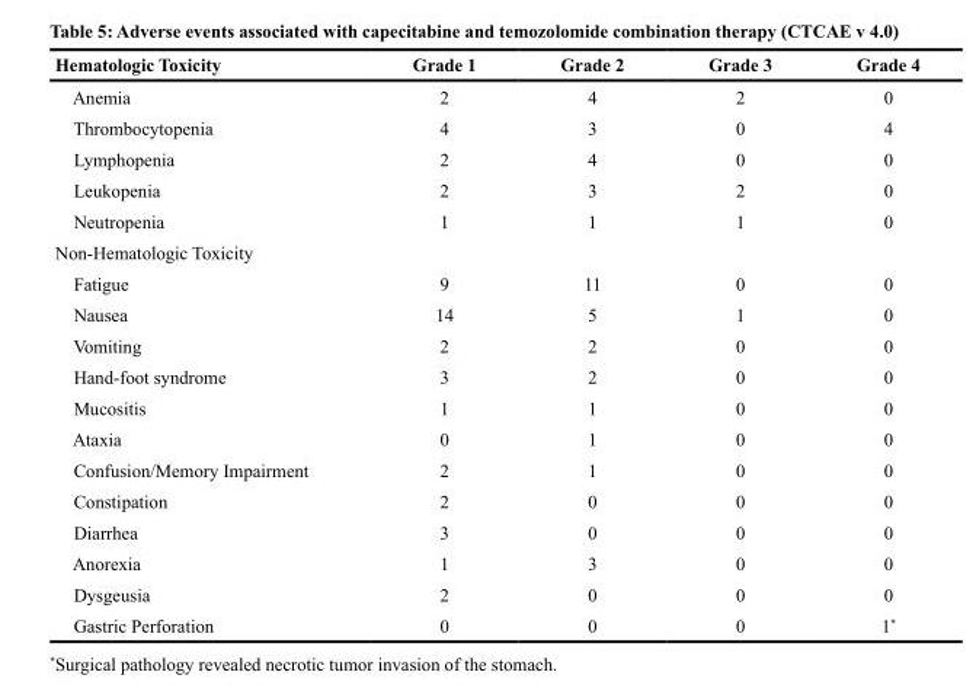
<table><thead><tr><td>Hematologic Toxicity</td><td>Grade 1</td><td>Grade 2</td><td>Grade 3</td><td>Grade 4</td></tr></thead><tbody><tr><td>Anemia</td><td>2</td><td>4</td><td>2</td><td>0</td></tr><tr><td>Thrombocytopenia</td><td>4</td><td>3</td><td>0</td><td>4</td></tr><tr><td>Lymphopenia</td><td>2</td><td>4</td><td>0</td><td>0</td></tr><tr><td>Leukopenia</td><td>2</td><td>3</td><td>2</td><td>0</td></tr><tr><td>Neutropenia</td><td>1</td><td>1</td><td>1</td><td>0</td></tr><tr><td colspan="5">Non-Hematologic Toxicity</td></tr><tr><td>Fatigue</td><td>9</td><td>11</td><td>0</td><td>0</td></tr><tr><td>Nausea</td><td>14</td><td>5</td><td>1</td><td>0</td></tr><tr><td>Vomiting</td><td>2</td><td>2</td><td>0</td><td>0</td></tr><tr><td>Hand-foot syndrome</td><td>3</td><td>2</td><td>0</td><td>0</td></tr><tr><td>Mucositis</td><td>1</td><td>1</td><td>0</td><td>0</td></tr><tr><td>Ataxia</td><td>0</td><td>1</td><td>0</td><td>0</td></tr><tr><td>Confusion/Memory Impairment</td><td>2</td><td>1</td><td>0</td><td>0</td></tr><tr><td>Constipation</td><td>2</td><td>0</td><td>0</td><td>0</td></tr><tr><td>Diarrhea</td><td>3</td><td>0</td><td>0</td><td>0</td></tr><tr><td>Anorexia</td><td>1</td><td>3</td><td>0</td><td>0</td></tr><tr><td>Dysgeusia</td><td>2</td><td>0</td><td>0</td><td>0</td></tr><tr><td>Gastric Perforation</td><td>0</td><td>0</td><td>0</td><td>1*</td></tr></tbody></table>